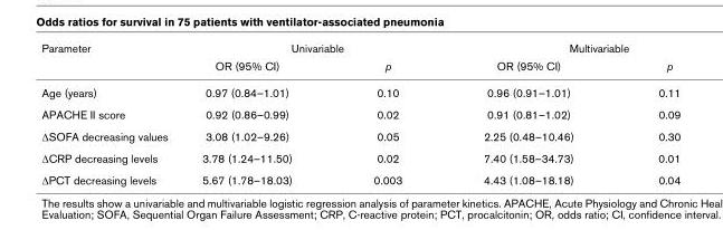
<table><thead><tr><td rowspan="2">Parameter</td><td colspan="2">Univariable</td><td colspan="2">Multivariable</td></tr><tr><td>OR (95% CI)</td><td>p</td><td>OR (95% CI)</td><td>p</td></tr></thead><tbody><tr><td>Age (years)</td><td>0.97 (0.84–1.01)</td><td>0.10</td><td>0.96 (0.91–1.01)</td><td>0.11</td></tr><tr><td>APACHE II score</td><td>0.92 (0.86–0.99)</td><td>0.02</td><td>0.91 (0.81–1.02)</td><td>0.09</td></tr><tr><td>∆SOFA decreasing values</td><td>3.08 (1.02–9.26)</td><td>0.05</td><td>2.25 (0.48–10.46)</td><td>0.30</td></tr><tr><td>∆CRP decreasing levels</td><td>3.78 (1.24–11.50)</td><td>0.02</td><td>7.40 (1.58–34.73)</td><td>0.01</td></tr><tr><td>∆PCT decreasing levels</td><td>5.67 (1.78–18.03)</td><td>0.003</td><td>4.43 (1.08–18.18)</td><td>0.04</td></tr></tbody></table>